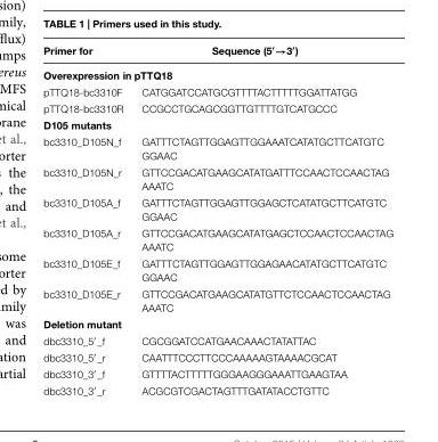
<table><thead><tr><td>Primer for</td><td>Sequence (5′→3′)</td></tr></thead><tbody><tr><td colspan="2">Overexpression in pTTQ18</td></tr><tr><td>pTTQ18-bc3310F</td><td>CATGGATCCATGCGTTTTACTTTTTGGATTATGG</td></tr><tr><td>pTTQ18-bc3310R</td><td>CCGCCTGCAGCGGTTGTTTTGTCATGCCC</td></tr><tr><td colspan="2">D105 mutants</td></tr><tr><td>bc3310_D105N_f</td><td>GATTTCTAGTTGGAGTTGGAAATCATATGCTTCATGTC GGAAC</td></tr><tr><td>bc3310_D105N_r</td><td>GTTCCGACATGAAGCATATGATTTCCAACTCCAACTAG AAATC</td></tr><tr><td>bc3310_D105A_f</td><td>GATTTCTAGTTGGAGTTGGAGCTCATATGCTTCATGTC GGAAC</td></tr><tr><td>bc3310_D105A_r</td><td>GTTCCGACATGAAGCATATGAGCTCCAACTCCAACTAG AAATC</td></tr><tr><td>bc3310_D105E_f</td><td>GATTTCTAGTTGGAGTTGGAGAACATATGCTTCATGTC GGAAC</td></tr><tr><td>bc3310_D105E_r</td><td>GTTCCGACATGAAGCATATGTTCTCCAACTCCAACTAG AAATC</td></tr><tr><td colspan="2">Deletion mutant</td></tr><tr><td>dbc3310_5′_f</td><td>CGCGGATCCATGAACAAACTATATTAC</td></tr><tr><td>dbc3310_5′_r</td><td>CAATTTCCCTTCCCAAAAAGTAAAACGCAT</td></tr><tr><td>dbc3310_3′_f</td><td>GTTTTACTTTTTGGGAAGGGAAATTGAAGTAA</td></tr><tr><td>dbc3310_3′_r</td><td>ACGCGTCGACTAGTTTGATATACCTGTTC</td></tr></tbody></table>